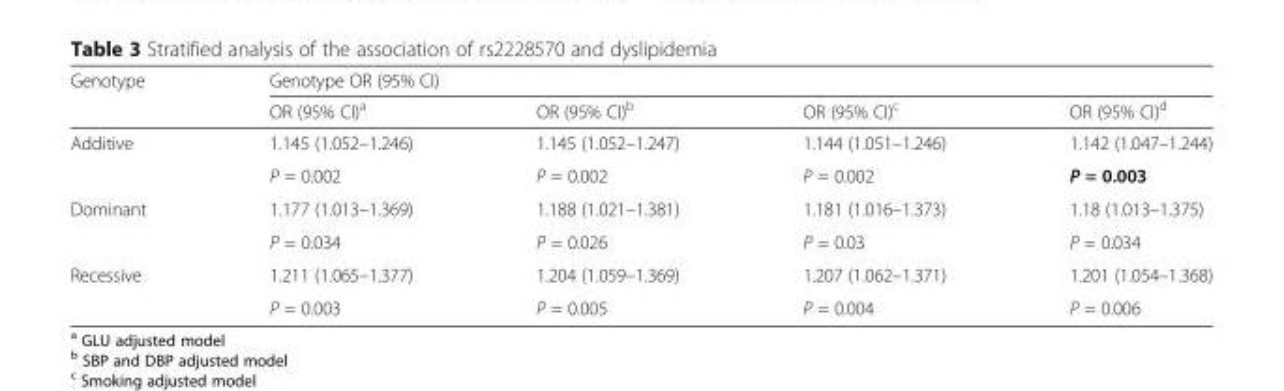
<table><thead><tr><td rowspan="2">Genotype</td><td colspan="4">Genotype OR (95% CI)</td></tr><tr><td>OR (95% CI)<sup>a</sup></td><td>OR (95% CI)<sup>b</sup></td><td>OR (95% CI)<sup>c</sup></td><td>OR (95% CI)<sup>d</sup></td></tr></thead><tbody><tr><td rowspan="2">Additive</td><td>1.145 (1.052–1.246)</td><td>1.145 (1.052–1.247)</td><td>1.144 (1.051–1.246)</td><td>1.142 (1.047–1.244)</td></tr><tr><td>P = 0.002</td><td>P = 0.002</td><td>P = 0.002</td><td>P = 0.003</td></tr><tr><td rowspan="2">Dominant</td><td>1.177 (1.013–1.369)</td><td>1.188 (1.021–1.381)</td><td>1.181 (1.016–1.373)</td><td>1.18 (1.013–1.375)</td></tr><tr><td>P = 0.034</td><td>P = 0.026</td><td>P = 0.03</td><td>P = 0.034</td></tr><tr><td rowspan="2">Recessive</td><td>1.211 (1.065–1.377)</td><td>1.204 (1.059–1.369)</td><td>1.207 (1.062–1.371)</td><td>1.201 (1.054–1.368)</td></tr><tr><td>P = 0.003</td><td>P = 0.005</td><td>P = 0.004</td><td>P = 0.006</td></tr></tbody></table>